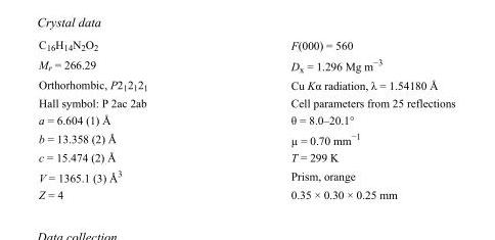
<table><tbody><tr><td>C<sub>16</sub>H<sub>14</sub>N<sub>2</sub>O<sub>2</sub></td><td>F(000) = 560</td></tr><tr><td>M<sub>r</sub> = 266.29</td><td>D<sub>x</sub> = 1.296 Mg m<sup>−3</sup></td></tr><tr><td>Orthorhombic, P2<sub>1</sub>2<sub>1</sub>2<sub>1</sub></td><td>Cu Kα radiation, λ = 1.54180 Å</td></tr><tr><td>Hall symbol: P 2ac 2ab</td><td>Cell parameters from 25 reflections</td></tr><tr><td>a = 6.604 (1) Å</td><td>θ = 8.0–20.1°</td></tr><tr><td>b = 13.358 (2) Å</td><td>µ = 0.70 mm<sup>−1</sup></td></tr><tr><td>c = 15.474 (2) Å</td><td>T = 299 K</td></tr><tr><td>V = 1365.1 (3) Å<sup>3</sup></td><td>Prism, orange</td></tr><tr><td>Z = 4</td><td>0.35 × 0.30 × 0.25 mm</td></tr></tbody></table>